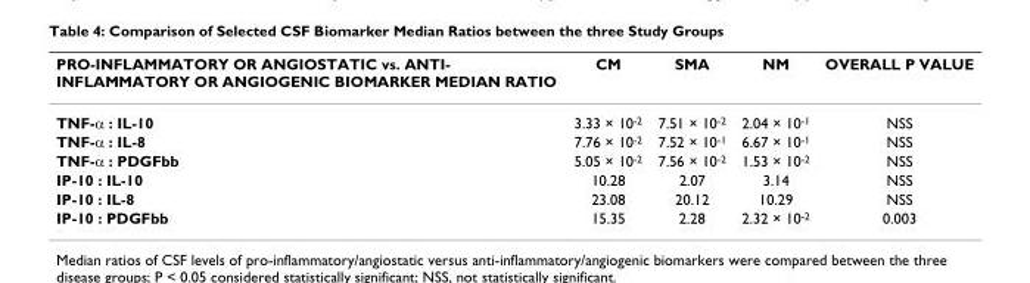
<table><thead><tr><td>PRO-INFLAMMATORY OR ANGIOSTATIC vs. ANTI- INFLAMMATORY OR ANGIOGENIC BIOMARKER MEDIAN RATIO</td><td>CM</td><td>SMA</td><td>NM</td><td>OVERALL P VALUE</td></tr></thead><tbody><tr><td>TNF-α : IL-10</td><td>3.33 × 10<sup>-2</sup></td><td>7.51 × 10<sup>-2</sup></td><td>2.04 × 10<sup>-1</sup></td><td>NSS</td></tr><tr><td>TNF-α : IL-8</td><td>7.76 × 10<sup>-2</sup></td><td>7.52 × 10<sup>-1</sup></td><td>6.67 × 10<sup>-1</sup></td><td>NSS</td></tr><tr><td>TNF-α : PDGFbb</td><td>5.05 × 10<sup>-2</sup></td><td>7.56 × 10<sup>-2</sup></td><td>1.53 × 10<sup>-2</sup></td><td>NSS</td></tr><tr><td>IP-10 : IL-10</td><td>10.28</td><td>2.07</td><td>3.14</td><td>NSS</td></tr><tr><td>IP-10 : IL-8</td><td>23.08</td><td>20.12</td><td>10.29</td><td>NSS</td></tr><tr><td>IP-10 : PDGFbb</td><td>15.35</td><td>2.28</td><td>2.32 × 10<sup>-2</sup></td><td>0.003</td></tr></tbody></table>